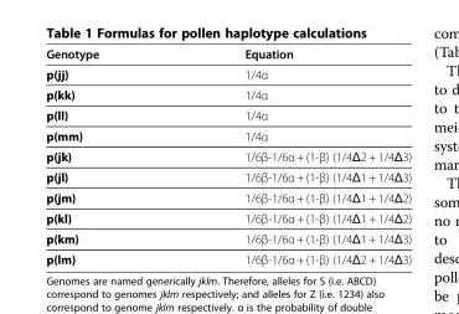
<table><thead><tr><td>Genotype</td><td>Equation</td></tr></thead><tbody><tr><td>p(jj)</td><td>1/4α</td></tr><tr><td>p(kk)</td><td>1/4α</td></tr><tr><td>p(ll)</td><td>1/4α</td></tr><tr><td>p(mm)</td><td>1/4α</td></tr><tr><td>p(jk)</td><td>1/6β-1/6α + (1-β) (1/4Δ2 + 1/4Δ3)</td></tr><tr><td>p(jl)</td><td>1/6β-1/6α + (1-β) (1/4Δ1 + 1/4Δ3)</td></tr><tr><td>p(jm)</td><td>1/6β-1/6α + (1-β) (1/4Δ1 + 1/4Δ2)</td></tr><tr><td>p(kl)</td><td>1/6β-1/6α + (1-β) (1/4Δ1 + 1/4Δ2)</td></tr><tr><td>p(km)</td><td>1/6β-1/6α + (1-β) (1/4Δ1 + 1/4Δ3)</td></tr><tr><td>p(lm)</td><td>1/6β-1/6α + (1-β) (1/4Δ2 + 1/4Δ3)</td></tr></tbody></table>